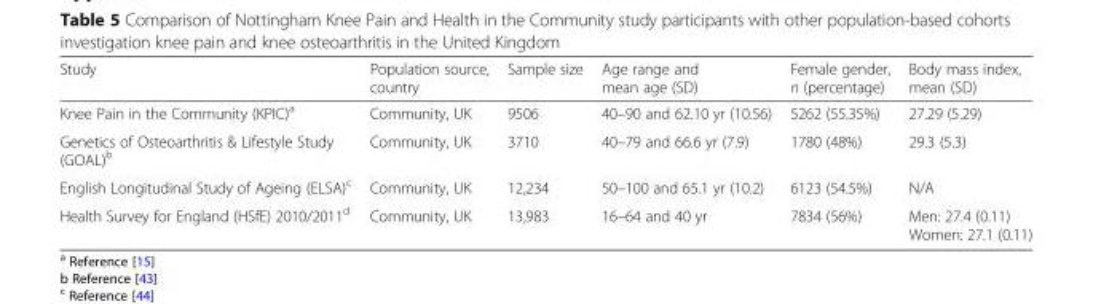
<table><thead><tr><td>Study</td><td>Population source, country</td><td>Sample size</td><td>Age range and mean age (SD)</td><td>Female gender, n (percentage)</td><td>Body mass index, mean (SD)</td></tr></thead><tbody><tr><td>Knee Pain in the Community (KPIC)<sup>a</sup></td><td>Community, UK</td><td>9506</td><td>40–90 and 62.10 yr (10.56)</td><td>5262 (55.35%)</td><td>27.29 (5.29)</td></tr><tr><td>Genetics of Osteoarthritis &amp; Lifestyle Study (GOAL)<sup>b</sup></td><td>Community, UK</td><td>3710</td><td>40–79 and 66.6 yr (7.9)</td><td>1780 (48%)</td><td>29.3 (5.3)</td></tr><tr><td>English Longitudinal Study of Ageing (ELSA)<sup>c</sup></td><td>Community, UK</td><td>12,234</td><td>50–100 and 65.1 yr (10.2)</td><td>6123 (54.5%)</td><td>N/A</td></tr><tr><td>Health Survey for England (HSfE) 2010/2011<sup>d</sup></td><td>Community, UK</td><td>13,983</td><td>16–64 and 40 yr</td><td>7834 (56%)</td><td>Men: 27.4 (0.11) Women: 27.1 (0.11)</td></tr></tbody></table>